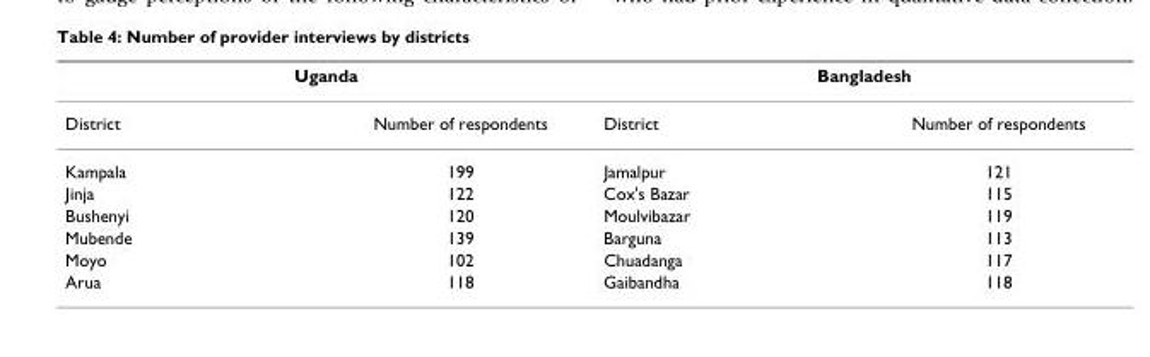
<table><thead><tr><td colspan="2">Uganda</td><td colspan="2">Bangladesh</td></tr><tr><td>District</td><td>Number of respondents</td><td>District</td><td>Number of respondents</td></tr></thead><tbody><tr><td>Kampala</td><td>199</td><td>Jamalpur</td><td>121</td></tr><tr><td>Jinja</td><td>122</td><td>Cox&#x27;s Bazar</td><td>115</td></tr><tr><td>Bushenyi</td><td>120</td><td>Moulvibazar</td><td>119</td></tr><tr><td>Mubende</td><td>139</td><td>Barguna</td><td>113</td></tr><tr><td>Moyo</td><td>102</td><td>Chuadanga</td><td>117</td></tr><tr><td>Arua</td><td>118</td><td>Gaibandha</td><td>118</td></tr></tbody></table>